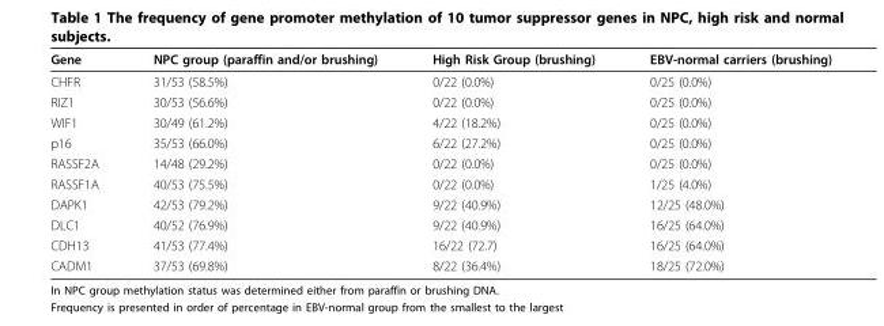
<table><thead><tr><td>Gene</td><td>NPC group (paraffin and/or brushing)</td><td>High Risk Group (brushing)</td><td>EBV-normal carriers (brushing)</td></tr></thead><tbody><tr><td>CHFR</td><td>31/53 (58.5%)</td><td>0/22 (0.0%)</td><td>0/25 (0.0%)</td></tr><tr><td>RIZ1</td><td>30/53 (56.6%)</td><td>0/22 (0.0%)</td><td>0/25 (0.0%)</td></tr><tr><td>WIF1</td><td>30/49 (61.2%)</td><td>4/22 (18.2%)</td><td>0/25 (0.0%)</td></tr><tr><td>p16</td><td>35/53 (66.0%)</td><td>6/22 (27.2%)</td><td>0/25 (0.0%)</td></tr><tr><td>RASSF2A</td><td>14/48 (29.2%)</td><td>0/22 (0.0%)</td><td>0/25 (0.0%)</td></tr><tr><td>RASSF1A</td><td>40/53 (75.5%)</td><td>0/22 (0.0%)</td><td>1/25 (4.0%)</td></tr><tr><td>DAPK1</td><td>42/53 (79.2%)</td><td>9/22 (40.9%)</td><td>12/25 (48.0%)</td></tr><tr><td>DLC1</td><td>40/52 (76.9%)</td><td>9/22 (40.9%)</td><td>16/25 (64.0%)</td></tr><tr><td>CDH13</td><td>41/53 (77.4%)</td><td>16/22 (72.7)</td><td>16/25 (64.0%)</td></tr><tr><td>CADM1</td><td>37/53 (69.8%)</td><td>8/22 (36.4%)</td><td>18/25 (72.0%)</td></tr></tbody></table>